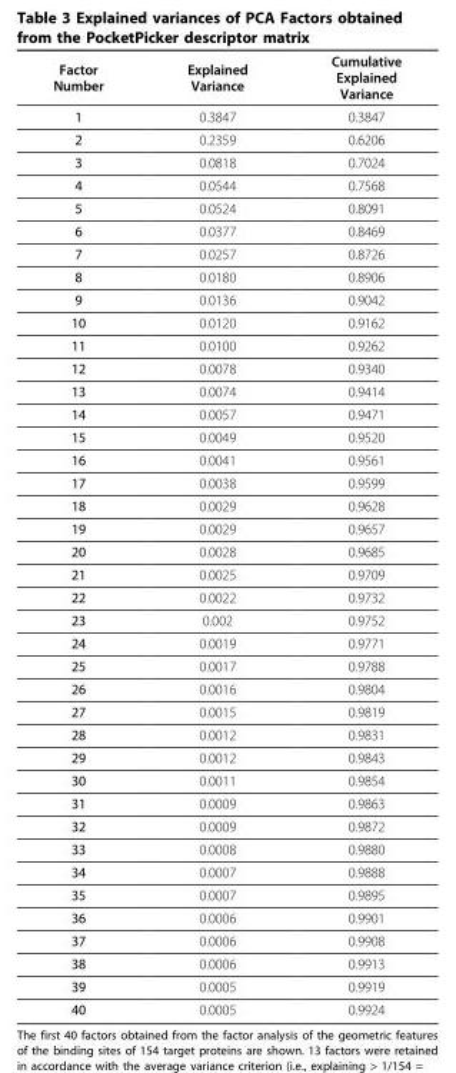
<table><thead><tr><td>Factor Number</td><td>Explained Variance</td><td>Cumulative Explained Variance</td></tr></thead><tbody><tr><td>1</td><td>0.3847</td><td>0.3847</td></tr><tr><td>2</td><td>0.2359</td><td>0.6206</td></tr><tr><td>3</td><td>0.0818</td><td>0.7024</td></tr><tr><td>4</td><td>0.0544</td><td>0.7568</td></tr><tr><td>5</td><td>0.0524</td><td>0.8091</td></tr><tr><td>6</td><td>0.0377</td><td>0.8469</td></tr><tr><td>7</td><td>0.0257</td><td>0.8726</td></tr><tr><td>8</td><td>0.0180</td><td>0.8906</td></tr><tr><td>9</td><td>0.0136</td><td>0.9042</td></tr><tr><td>10</td><td>0.0120</td><td>0.9162</td></tr><tr><td>11</td><td>0.0100</td><td>0.9262</td></tr><tr><td>12</td><td>0.0078</td><td>0.9340</td></tr><tr><td>13</td><td>0.0074</td><td>0.9414</td></tr><tr><td>14</td><td>0.0057</td><td>0.9471</td></tr><tr><td>15</td><td>0.0049</td><td>0.9520</td></tr><tr><td>16</td><td>0.0041</td><td>0.9561</td></tr><tr><td>17</td><td>0.0038</td><td>0.9599</td></tr><tr><td>18</td><td>0.0029</td><td>0.9628</td></tr><tr><td>19</td><td>0.0029</td><td>0.9657</td></tr><tr><td>20</td><td>0.0028</td><td>0.9685</td></tr><tr><td>21</td><td>0.0025</td><td>0.9709</td></tr><tr><td>22</td><td>0.0022</td><td>0.9732</td></tr><tr><td>23</td><td>0.002</td><td>0.9752</td></tr><tr><td>24</td><td>0.0019</td><td>0.9771</td></tr><tr><td>25</td><td>0.0017</td><td>0.9788</td></tr><tr><td>26</td><td>0.0016</td><td>0.9804</td></tr><tr><td>27</td><td>0.0015</td><td>0.9819</td></tr><tr><td>28</td><td>0.0012</td><td>0.9831</td></tr><tr><td>29</td><td>0.0012</td><td>0.9843</td></tr><tr><td>30</td><td>0.0011</td><td>0.9854</td></tr><tr><td>31</td><td>0.0009</td><td>0.9863</td></tr><tr><td>32</td><td>0.0009</td><td>0.9872</td></tr><tr><td>33</td><td>0.0008</td><td>0.9880</td></tr><tr><td>34</td><td>0.0007</td><td>0.9888</td></tr><tr><td>35</td><td>0.0007</td><td>0.9895</td></tr><tr><td>36</td><td>0.0006</td><td>0.9901</td></tr><tr><td>37</td><td>0.0006</td><td>0.9908</td></tr><tr><td>38</td><td>0.0006</td><td>0.9913</td></tr><tr><td>39</td><td>0.0005</td><td>0.9919</td></tr><tr><td>40</td><td>0.0005</td><td>0.9924</td></tr></tbody></table>